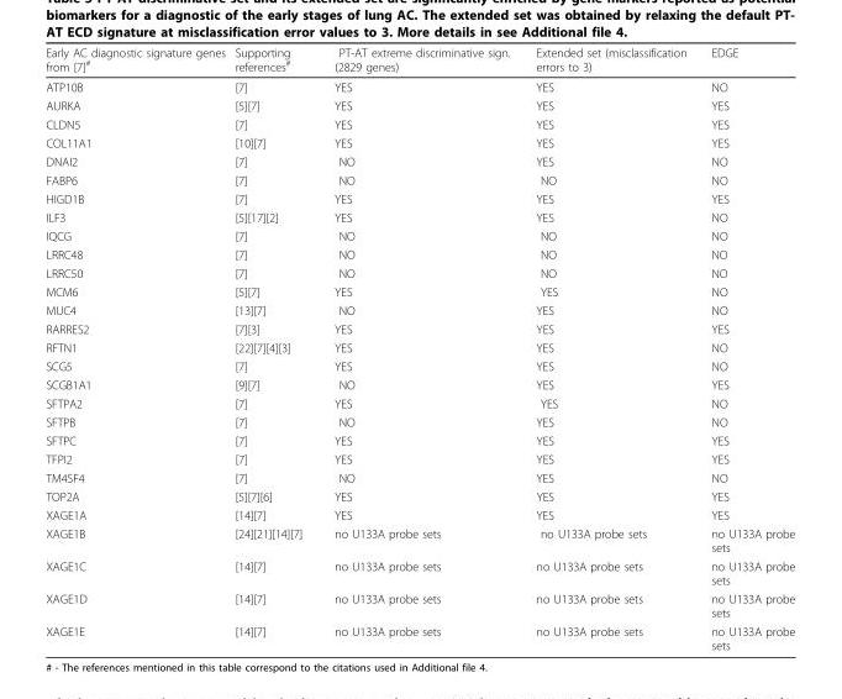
<table><thead><tr><td>Early AC diagnostic signature genes from [7]<sup>#</sup></td><td>Supporting references<sup>#</sup></td><td>PT-AT extreme discriminative sign. (2829 genes)</td><td>Extended set (misclassification errors to 3)</td><td>EDGE</td></tr></thead><tbody><tr><td>ATP10B</td><td>[7]</td><td>YES</td><td>YES</td><td>NO</td></tr><tr><td>AURKA</td><td>[5][7]</td><td>YES</td><td>YES</td><td>YES</td></tr><tr><td>CLDN5</td><td>[7]</td><td>YES</td><td>YES</td><td>YES</td></tr><tr><td>COL11A1</td><td>[10][7]</td><td>YES</td><td>YES</td><td>YES</td></tr><tr><td>DNAI2</td><td>[7]</td><td>NO</td><td>YES</td><td>NO</td></tr><tr><td>FABP6</td><td>[7]</td><td>NO</td><td>NO</td><td>NO</td></tr><tr><td>HIGD1B</td><td>[7]</td><td>YES</td><td>YES</td><td>YES</td></tr><tr><td>ILF3</td><td>[5][17][2]</td><td>YES</td><td>YES</td><td>NO</td></tr><tr><td>IQCG</td><td>[7]</td><td>NO</td><td>NO</td><td>NO</td></tr><tr><td>LRRC48</td><td>[7]</td><td>NO</td><td>NO</td><td>NO</td></tr><tr><td>LRRC50</td><td>[7]</td><td>NO</td><td>NO</td><td>NO</td></tr><tr><td>MCM6</td><td>[5][7]</td><td>YES</td><td>YES</td><td>NO</td></tr><tr><td>MUC4</td><td>[13][7]</td><td>NO</td><td>YES</td><td>NO</td></tr><tr><td>RARRES2</td><td>[7][3]</td><td>YES</td><td>YES</td><td>YES</td></tr><tr><td>RFTN1</td><td>[22][7][4][3]</td><td>YES</td><td>YES</td><td>NO</td></tr><tr><td>SCG5</td><td>[7]</td><td>YES</td><td>YES</td><td>NO</td></tr><tr><td>SCGB1A1</td><td>[9][7]</td><td>NO</td><td>YES</td><td>YES</td></tr><tr><td>SFTPA2</td><td>[7]</td><td>YES</td><td>YES</td><td>NO</td></tr><tr><td>SFTPB</td><td>[7]</td><td>NO</td><td>YES</td><td>NO</td></tr><tr><td>SFTPC</td><td>[7]</td><td>YES</td><td>YES</td><td>YES</td></tr><tr><td>TFPI2</td><td>[7]</td><td>YES</td><td>YES</td><td>YES</td></tr><tr><td>TM4SF4</td><td>[7]</td><td>NO</td><td>YES</td><td>NO</td></tr><tr><td>TOP2A</td><td>[5][7][6]</td><td>YES</td><td>YES</td><td>YES</td></tr><tr><td>XAGE1A</td><td>[14][7]</td><td>YES</td><td>YES</td><td>YES</td></tr><tr><td>XAGE1B</td><td>[24][21][14][7]</td><td>no U133A probe sets</td><td>no U133A probe sets</td><td>no U133A probe sets</td></tr><tr><td>XAGE1C</td><td>[14][7]</td><td>no U133A probe sets</td><td>no U133A probe sets</td><td>no U133A probe sets</td></tr><tr><td>XAGE1D</td><td>[14][7]</td><td>no U133A probe sets</td><td>no U133A probe sets</td><td>no U133A probe sets</td></tr><tr><td>XAGE1E</td><td>[14][7]</td><td>no U133A probe sets</td><td>no U133A probe sets</td><td>no U133A probe sets</td></tr></tbody></table>